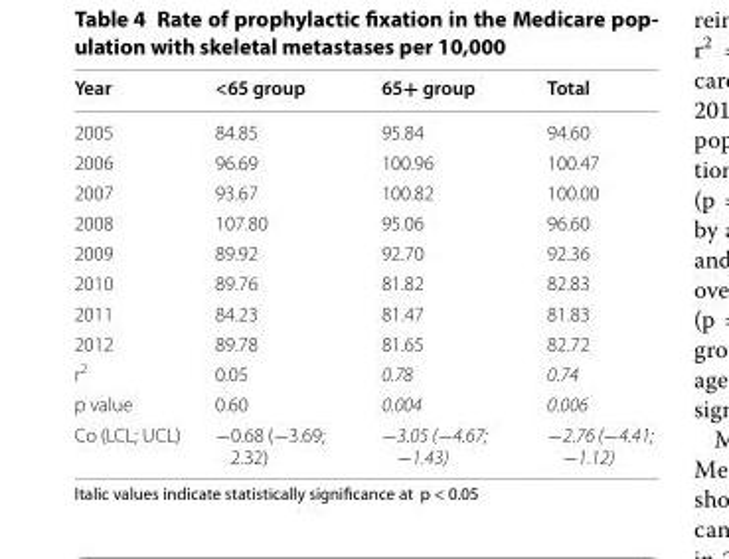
<table><thead><tr><td>Year</td><td>&lt;65 group</td><td>65+ group</td><td>Total</td></tr></thead><tbody><tr><td>2005</td><td>84.85</td><td>95.84</td><td>94.60</td></tr><tr><td>2006</td><td>96.69</td><td>100.96</td><td>100.47</td></tr><tr><td>2007</td><td>93.67</td><td>100.82</td><td>100.00</td></tr><tr><td>2008</td><td>107.80</td><td>95.06</td><td>96.60</td></tr><tr><td>2009</td><td>89.92</td><td>92.70</td><td>92.36</td></tr><tr><td>2010</td><td>89.76</td><td>81.82</td><td>82.83</td></tr><tr><td>2011</td><td>84.23</td><td>81.47</td><td>81.83</td></tr><tr><td>2012</td><td>89.78</td><td>81.65</td><td>82.72</td></tr><tr><td>r<sup>2</sup></td><td>0.05</td><td>0.78</td><td>0.74</td></tr><tr><td>p value</td><td>0.60</td><td>0.004</td><td>0.006</td></tr><tr><td>Co (LCL; UCL)</td><td>−0.68 (−3.69; 2.32)</td><td>−3.05 (−4.67; −1.43)</td><td>−2.76 (−4.41; −1.12)</td></tr></tbody></table>